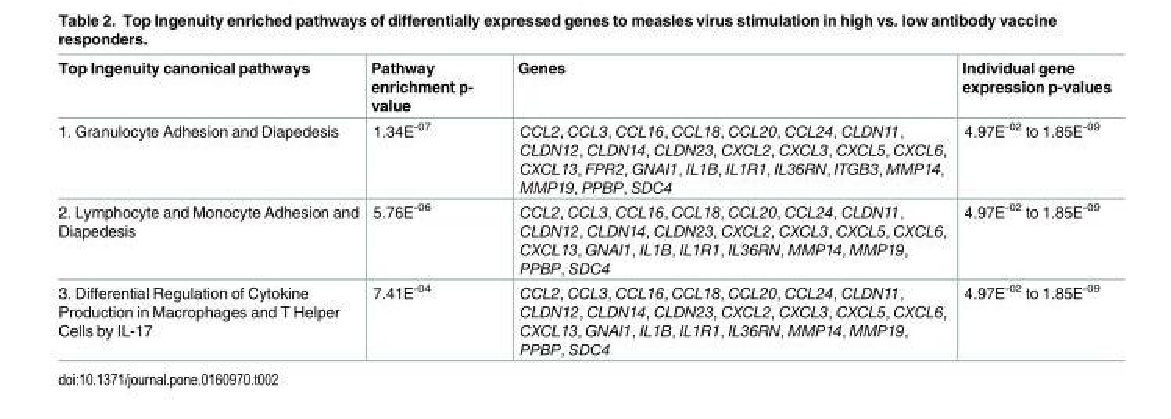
<table><thead><tr><td>Top Ingenuity canonical pathways</td><td>Pathway enrichment p- value</td><td>Genes</td><td>Individual gene expression p-values</td></tr></thead><tbody><tr><td>1. Granulocyte Adhesion and Diapedesis</td><td>1.34E<sup>-07</sup></td><td>CCL2, CCL3, CCL16, CCL18, CCL20, CCL24, CLDN11, CLDN12, CLDN14, CLDN23, CXCL2, CXCL3, CXCL5, CXCL6, CXCL13, FPR2, GNAI1, IL1B, IL1R1, IL36RN, ITGB3, MMP14, MMP19, PPBP, SDC4</td><td>4.97E<sup>-02</sup> to 1.85E<sup>-09</sup></td></tr><tr><td>2. Lymphocyte and Monocyte Adhesion and Diapedesis</td><td>5.76E<sup>-06</sup></td><td>CCL2, CCL3, CCL16, CCL18, CCL20, CCL24, CLDN11, CLDN12, CLDN14, CLDN23, CXCL2, CXCL3, CXCL5, CXCL6, CXCL13, GNAI1, IL1B, IL1R1, IL36RN, MMP14, MMP19, PPBP, SDC4</td><td>4.97E<sup>-02</sup> to 1.85E<sup>-09</sup></td></tr><tr><td>3. Differential Regulation of Cytokine Production in Macrophages and T Helper Cells by IL-17</td><td>7.41E<sup>-04</sup></td><td>CCL2, CCL3, CCL16, CCL18, CCL20, CCL24, CLDN11, CLDN12, CLDN14, CLDN23, CXCL2, CXCL3, CXCL5, CXCL6, CXCL13, GNAI1, IL1B, IL1R1, IL36RN, MMP14, MMP19, PPBP, SDC4</td><td>4.97E<sup>-02</sup> to 1.85E<sup>-09</sup></td></tr></tbody></table>